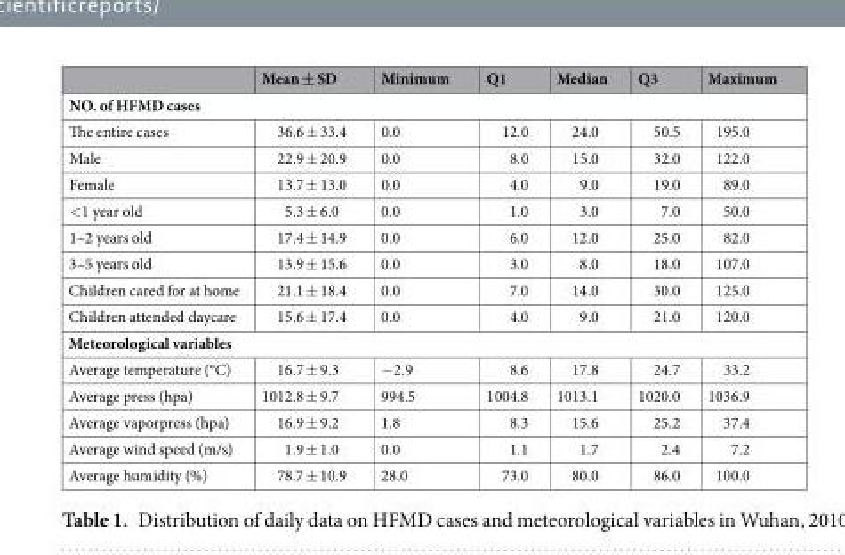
<table><thead><tr><td></td><td>Mean ± SD</td><td>Minimum</td><td>Q1</td><td>Median</td><td>Q3</td><td>Maximum</td></tr></thead><tbody><tr><td colspan="7">NO. of HFMD cases</td></tr><tr><td>The entire cases</td><td>36.6 ± 33.4</td><td>0.0</td><td>12.0</td><td>24.0</td><td>50.5</td><td>195.0</td></tr><tr><td>Male</td><td>22.9 ± 20.9</td><td>0.0</td><td>8.0</td><td>15.0</td><td>32.0</td><td>122.0</td></tr><tr><td>Female</td><td>13.7 ± 13.0</td><td>0.0</td><td>4.0</td><td>9.0</td><td>19.0</td><td>89.0</td></tr><tr><td>&lt;1 year old</td><td>5.3 ± 6.0</td><td>0.0</td><td>1.0</td><td>3.0</td><td>7.0</td><td>50.0</td></tr><tr><td>1–2 years old</td><td>17.4 ± 14.9</td><td>0.0</td><td>6.0</td><td>12.0</td><td>25.0</td><td>82.0</td></tr><tr><td>3–5 years old</td><td>13.9 ± 15.6</td><td>0.0</td><td>3.0</td><td>8.0</td><td>18.0</td><td>107.0</td></tr><tr><td>Children cared for at home</td><td>21.1 ± 18.4</td><td>0.0</td><td>7.0</td><td>14.0</td><td>30.0</td><td>125.0</td></tr><tr><td>Children attended daycare</td><td>15.6 ± 17.4</td><td>0.0</td><td>4.0</td><td>9.0</td><td>21.0</td><td>120.0</td></tr><tr><td colspan="7">Meteorological variables</td></tr><tr><td>Average temperature (°C)</td><td>16.7 ± 9.3</td><td>−2.9</td><td>8.6</td><td>17.8</td><td>24.7</td><td>33.2</td></tr><tr><td>Average press (hpa)</td><td>1012.8 ± 9.7</td><td>994.5</td><td>1004.8</td><td>1013.1</td><td>1020.0</td><td>1036.9</td></tr><tr><td>Average vaporpress (hpa)</td><td>16.9 ± 9.2</td><td>1.8</td><td>8.3</td><td>15.6</td><td>25.2</td><td>37.4</td></tr><tr><td>Average wind speed (m/s)</td><td>1.9 ± 1.0</td><td>0.0</td><td>1.1</td><td>1.7</td><td>2.4</td><td>7.2</td></tr><tr><td>Average humidity (%)</td><td>78.7 ± 10.9</td><td>28.0</td><td>73.0</td><td>80.0</td><td>86.0</td><td>100.0</td></tr></tbody></table>